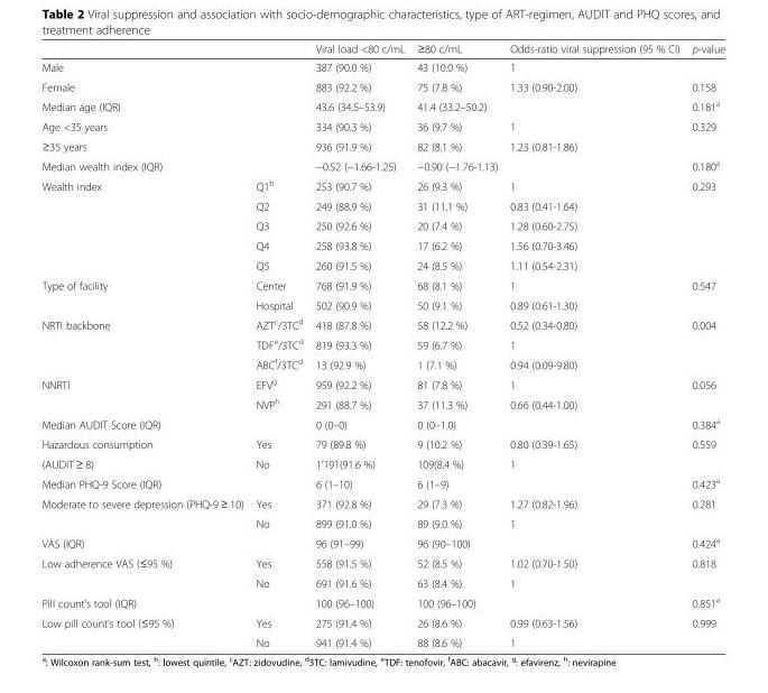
<table><thead><tr><td></td><td></td><td>Viral load &lt;80 c/mL</td><td>≥80 c/mL</td><td>Odds-ratio viral suppression (95 % CI)</td><td>p-value</td></tr></thead><tbody><tr><td>Male</td><td></td><td>387 (90.0 %)</td><td>43 (10.0 %)</td><td>1</td><td></td></tr><tr><td>Female</td><td></td><td>883 (92.2 %)</td><td>75 (7.8 %)</td><td>1.33 (0.90-2.00)</td><td>0.158</td></tr><tr><td>Median age (IQR)</td><td></td><td>43.6 (34.5–53.9)</td><td>41.4 (33.2–50.2)</td><td></td><td>0.181<sup>a</sup></td></tr><tr><td>Age &lt;35 years</td><td></td><td>334 (90.3 %)</td><td>36 (9.7 %)</td><td>1</td><td>0.329</td></tr><tr><td>≥35 years</td><td></td><td>936 (91.9 %)</td><td>82 (8.1 %)</td><td>1.23 (0.81-1.86)</td><td></td></tr><tr><td>Median wealth index (IQR)</td><td></td><td>−0.52 (−1.66-1.25)</td><td>−0.90 (−1.76-1.13)</td><td></td><td>0.180<sup>a</sup></td></tr><tr><td rowspan="5">Wealth index</td><td>Q1<sup>b</sup></td><td>253 (90.7 %)</td><td>26 (9.3 %)</td><td>1</td><td>0.293</td></tr><tr><td>Q2</td><td>249 (88.9 %)</td><td>31 (11.1 %)</td><td>0.83 (0.41-1.64)</td><td></td></tr><tr><td>Q3</td><td>250 (92.6 %)</td><td>20 (7.4 %)</td><td>1.28 (0.60-2.75)</td><td></td></tr><tr><td>Q4</td><td>258 (93.8 %)</td><td>17 (6.2 %)</td><td>1.56 (0.70-3.46)</td><td></td></tr><tr><td>Q5</td><td>260 (91.5 %)</td><td>24 (8.5 %)</td><td>1.11 (0.54-2.31)</td><td></td></tr><tr><td rowspan="2">Type of facility</td><td>Center</td><td>768 (91.9 %)</td><td>68 (8.1 %)</td><td>1</td><td>0.547</td></tr><tr><td>Hospital</td><td>502 (90.9 %)</td><td>50 (9.1 %)</td><td>0.89 (0.61-1.30)</td><td></td></tr><tr><td rowspan="3">NRTI backbone</td><td>AZT<sup>c</sup>/3TC<sup>d</sup></td><td>418 (87.8 %)</td><td>58 (12.2 %)</td><td>0.52 (0.34-0.80)</td><td>0.004</td></tr><tr><td>TDF<sup>e</sup>/3TC<sup>d</sup></td><td>819 (93.3 %)</td><td>59 (6.7 %)</td><td>1</td><td></td></tr><tr><td>ABC<sup>f</sup>/3TC<sup>d</sup></td><td>13 (92.9 %)</td><td>1 (7.1 %)</td><td>0.94 (0.09-9.80)</td><td></td></tr><tr><td rowspan="2">NNRTI</td><td>EFV<sup>g</sup></td><td>959 (92.2 %)</td><td>81 (7.8 %)</td><td>1</td><td>0.056</td></tr><tr><td>NVP<sup>h</sup></td><td>291 (88.7 %)</td><td>37 (11.3 %)</td><td>0.66 (0.44-1.00)</td><td></td></tr><tr><td>Median AUDIT Score (IQR)</td><td></td><td>0 (0–0)</td><td>0 (0–1.0)</td><td></td><td>0.384<sup>a</sup></td></tr><tr><td>Hazardous consumption</td><td>Yes</td><td>79 (89.8 %)</td><td>9 (10.2 %)</td><td>0.80 (0.39-1.65)</td><td>0.559</td></tr><tr><td>(AUDIT ≥ 8)</td><td>No</td><td>1’191(91.6 %)</td><td>109(8.4 %)</td><td>1</td><td></td></tr><tr><td>Median PHQ-9 Score (IQR)</td><td></td><td>6 (1–10)</td><td>6 (1–9)</td><td></td><td>0.423<sup>a</sup></td></tr><tr><td rowspan="2">Moderate to severe depression (PHQ-9 ≥ 10)</td><td>Yes</td><td>371 (92.8 %)</td><td>29 (7.3 %)</td><td>1.27 (0.82-1.96)</td><td>0.281</td></tr><tr><td>No</td><td>899 (91.0 %)</td><td>89 (9.0 %)</td><td>1</td><td></td></tr><tr><td>VAS (IQR)</td><td></td><td>96 (91–99)</td><td>96 (90–100)</td><td></td><td>0.424<sup>a</sup></td></tr><tr><td rowspan="2">Low adherence VAS (≤95 %)</td><td>Yes</td><td>558 (91.5 %)</td><td>52 (8.5 %)</td><td>1.02 (0.70-1.50)</td><td>0.818</td></tr><tr><td>No</td><td>691 (91.6 %)</td><td>63 (8.4 %)</td><td>1</td><td></td></tr><tr><td>Pill count’s tool (IQR)</td><td></td><td>100 (96–100)</td><td>100 (96–100)</td><td></td><td>0.851<sup>a</sup></td></tr><tr><td rowspan="2">Low pill count’s tool (≤95 %)</td><td>Yes</td><td>275 (91.4 %)</td><td>26 (8.6 %)</td><td>0.99 (0.63-1.56)</td><td>0.999</td></tr><tr><td>No</td><td>941 (91.4 %)</td><td>88 (8.6 %)</td><td>1</td><td></td></tr></tbody></table>